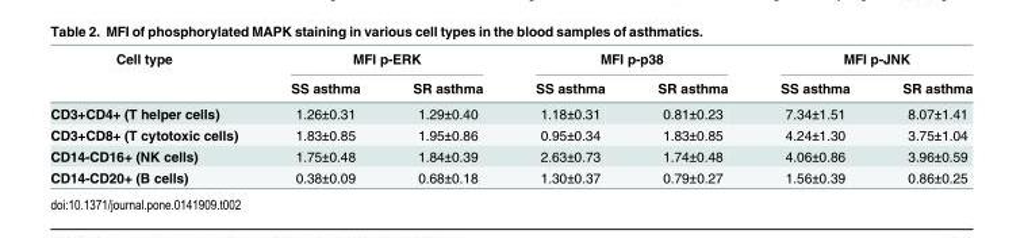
<table><thead><tr><td rowspan="2">Cell type</td><td colspan="2">MFI p-ERK</td><td colspan="2">MFI p-p38</td><td colspan="2">MFI p-JNK</td></tr><tr><td>SS asthma</td><td>SR asthma</td><td>SS asthma</td><td>SR asthma</td><td>SS asthma</td><td>SR asthma</td></tr></thead><tbody><tr><td>CD3+CD4+ (T helper cells)</td><td>1.26±0.31</td><td>1.29±0.40</td><td>1.18±0.31</td><td>0.81±0.23</td><td>7.34±1.51</td><td>8.07±1.41</td></tr><tr><td>CD3+CD8+ (T cytotoxic cells)</td><td>1.83±0.85</td><td>1.95±0.86</td><td>0.95±0.34</td><td>1.83±0.85</td><td>4.24±1.30</td><td>3.75±1.04</td></tr><tr><td>CD14-CD16+ (NK cells)</td><td>1.75±0.48</td><td>1.84±0.39</td><td>2.63±0.73</td><td>1.74±0.48</td><td>4.06±0.86</td><td>3.96±0.59</td></tr><tr><td>CD14-CD20+ (B cells)</td><td>0.38±0.09</td><td>0.68±0.18</td><td>1.30±0.37</td><td>0.79±0.27</td><td>1.56±0.39</td><td>0.86±0.25</td></tr></tbody></table>